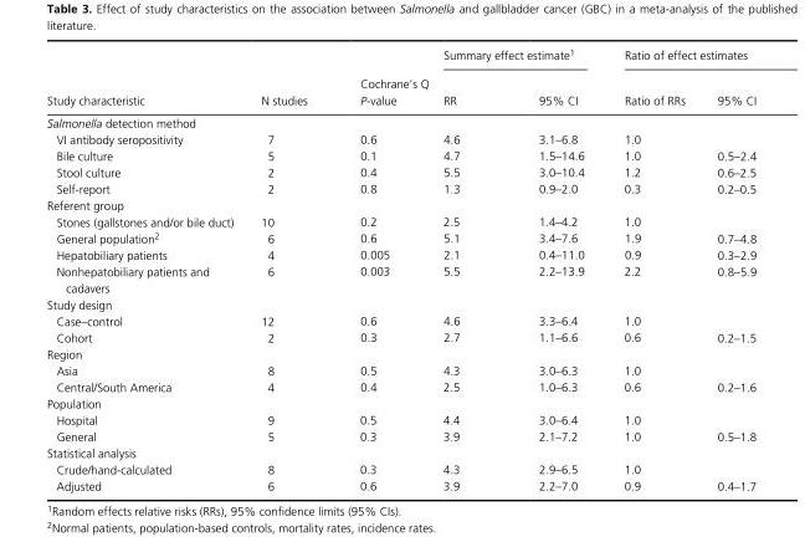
<table><thead><tr><td rowspan="2">Study characteristic</td><td rowspan="2">N studies</td><td rowspan="2">Cochrane’s Q P- value</td><td colspan="2">Summary effect estimate1</td><td colspan="2">Ratio of effect estimates</td></tr><tr><td>RR</td><td>95% CI</td><td>Ratio of RRs</td><td>95% CI</td></tr></thead><tbody><tr><td colspan="7">Salmonella detection method</td></tr><tr><td>VI antibody seropositivity</td><td>7</td><td>0.6</td><td>4.6</td><td>3.1–6.8</td><td>1.0</td><td></td></tr><tr><td>Bile culture</td><td>5</td><td>0.1</td><td>4.7</td><td>1.5–14.6</td><td>1.0</td><td>0.5–2.4</td></tr><tr><td>Stool culture</td><td>2</td><td>0.4</td><td>5.5</td><td>3.0–10.4</td><td>1.2</td><td>0.6–2.5</td></tr><tr><td>Self- report</td><td>2</td><td>0.8</td><td>1.3</td><td>0.9–2.0</td><td>0.3</td><td>0.2–0.5</td></tr><tr><td colspan="7">Referent group</td></tr><tr><td>Stones (gallstones and/or bile duct)</td><td>10</td><td>0.2</td><td>2.5</td><td>1.4–4.2</td><td>1.0</td><td></td></tr><tr><td>General population2</td><td>6</td><td>0.6</td><td>5.1</td><td>3.4–7.6</td><td>1.9</td><td>0.7–4.8</td></tr><tr><td>Hepatobiliary patients</td><td>4</td><td>0.005</td><td>2.1</td><td>0.4–11.0</td><td>0.9</td><td>0.3–2.9</td></tr><tr><td>Nonhepatobiliary patients and cadavers</td><td>6</td><td>0.003</td><td>5.5</td><td>2.2–13.9</td><td>2.2</td><td>0.8–5.9</td></tr><tr><td colspan="7">Study design</td></tr><tr><td>Case–control</td><td>12</td><td>0.6</td><td>4.6</td><td>3.3–6.4</td><td>1.0</td><td></td></tr><tr><td>Cohort</td><td>2</td><td>0.3</td><td>2.7</td><td>1.1–6.6</td><td>0.6</td><td>0.2–1.5</td></tr><tr><td colspan="7">Region</td></tr><tr><td>Asia</td><td>8</td><td>0.5</td><td>4.3</td><td>3.0–6.3</td><td>1.0</td><td></td></tr><tr><td>Central/South America</td><td>4</td><td>0.4</td><td>2.5</td><td>1.0–6.3</td><td>0.6</td><td>0.2–1.6</td></tr><tr><td colspan="7">Population</td></tr><tr><td>Hospital</td><td>9</td><td>0.5</td><td>4.4</td><td>3.0–6.4</td><td>1.0</td><td></td></tr><tr><td>General</td><td>5</td><td>0.3</td><td>3.9</td><td>2.1–7.2</td><td>1.0</td><td>0.5–1.8</td></tr><tr><td colspan="7">Statistical analysis</td></tr><tr><td>Crude/hand- calculated</td><td>8</td><td>0.3</td><td>4.3</td><td>2.9–6.5</td><td>1.0</td><td></td></tr><tr><td>Adjusted</td><td>6</td><td>0.6</td><td>3.9</td><td>2.2–7.0</td><td>0.9</td><td>0.4–1.7</td></tr></tbody></table>